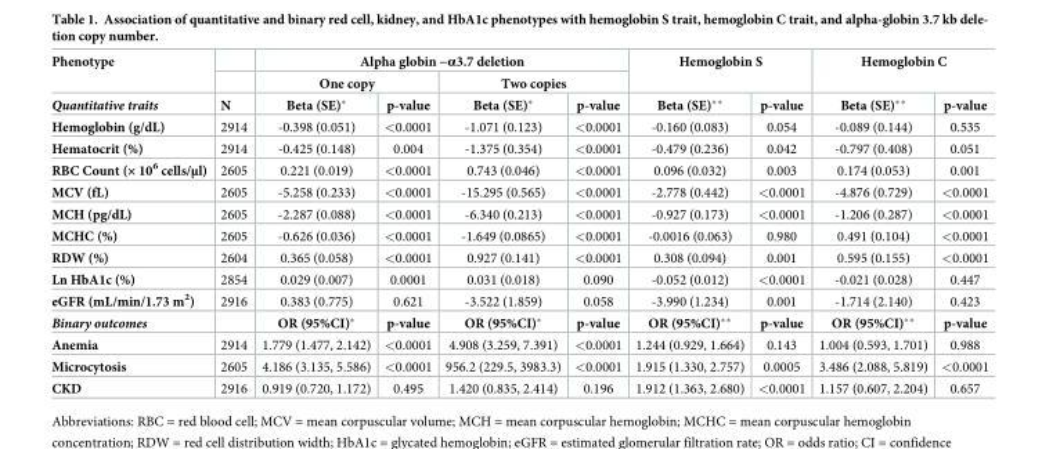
<table><thead><tr><td rowspan="3">Phenotype Quantitative traits</td><td rowspan="3">N</td><td colspan="4">Alpha globin −α3.7 deletion</td><td rowspan="2" colspan="2">Hemoglobin S</td><td rowspan="2" colspan="2">Hemoglobin C</td></tr><tr><td colspan="2">One copy</td><td colspan="2">Two copies</td></tr><tr><td>Beta (SE)*</td><td>p-value</td><td>Beta (SE)*</td><td>p-value</td><td>Beta (SE)**</td><td>p-value</td><td>Beta (SE)**</td><td>p-value</td></tr></thead><tbody><tr><td>Hemoglobin (g/dL)</td><td>2914</td><td>-0.398 (0.051)</td><td>&lt;0.0001</td><td>-1.071 (0.123)</td><td>&lt;0.0001</td><td>-0.160 (0.083)</td><td>0.054</td><td>-0.089 (0.144)</td><td>0.535</td></tr><tr><td>Hematocrit (%)</td><td>2914</td><td>-0.425 (0.148)</td><td>0.004</td><td>-1.375 (0.354)</td><td>&lt;0.0001</td><td>-0.479 (0.236)</td><td>0.042</td><td>-0.797 (0.408)</td><td>0.051</td></tr><tr><td>RBC Count (× 10<sup>6</sup> cells/μl)</td><td>2605</td><td>0.221 (0.019)</td><td>&lt;0.0001</td><td>0.743 (0.046)</td><td>&lt;0.0001</td><td>0.096 (0.032)</td><td>0.003</td><td>0.174 (0.053)</td><td>0.001</td></tr><tr><td>MCV (fL)</td><td>2605</td><td>-5.258 (0.233)</td><td>&lt;0.0001</td><td>-15.295 (0.565)</td><td>&lt;0.0001</td><td>-2.778 (0.442)</td><td>&lt;0.0001</td><td>-4.876 (0.729)</td><td>&lt;0.0001</td></tr><tr><td>MCH (pg/dL)</td><td>2605</td><td>-2.287 (0.088)</td><td>&lt;0.0001</td><td>-6.340 (0.213)</td><td>&lt;0.0001</td><td>-0.927 (0.173)</td><td>&lt;0.0001</td><td>-1.206 (0.287)</td><td>&lt;0.0001</td></tr><tr><td>MCHC (%)</td><td>2605</td><td>-0.626 (0.036)</td><td>&lt;0.0001</td><td>-1.649 (0.0865)</td><td>&lt;0.0001</td><td>-0.0016 (0.063)</td><td>0.980</td><td>0.491 (0.104)</td><td>&lt;0.0001</td></tr><tr><td>RDW (%)</td><td>2604</td><td>0.365 (0.058)</td><td>&lt;0.0001</td><td>0.927 (0.141)</td><td>&lt;0.0001</td><td>0.308 (0.094)</td><td>0.001</td><td>0.595 (0.155)</td><td>&lt;0.0001</td></tr><tr><td>Ln HbA1c (%)</td><td>2854</td><td>0.029 (0.007)</td><td>0.0001</td><td>0.031 (0.018)</td><td>0.090</td><td>-0.052 (0.012)</td><td>&lt;0.0001</td><td>-0.021 (0.028)</td><td>0.447</td></tr><tr><td>eGFR (mL/min/1.73 m<sup>2</sup>)</td><td>2916</td><td>0.383 (0.775)</td><td>0.621</td><td>-3.522 (1.859)</td><td>0.058</td><td>-3.990 (1.234)</td><td>0.001</td><td>-1.714 (2.140)</td><td>0.423</td></tr><tr><td>Binary outcomes</td><td></td><td>OR (95%CI)*</td><td>p-value</td><td>OR (95%CI)*</td><td>p-value</td><td>OR (95%CI)**</td><td>p-value</td><td>OR (95%CI)**</td><td>p-value</td></tr><tr><td>Anemia</td><td>2914</td><td>1.779 (1.477, 2.142)</td><td>&lt;0.0001</td><td>4.908 (3.259, 7.391)</td><td>&lt;0.0001</td><td>1.244 (0.929, 1.664)</td><td>0.143</td><td>1.004 (0.593, 1.701)</td><td>0.988</td></tr><tr><td>Microcytosis</td><td>2605</td><td>4.186 (3.135, 5.586)</td><td>&lt;0.0001</td><td>956.2 (229.5, 3983.3)</td><td>&lt;0.0001</td><td>1.915 (1.330, 2.757)</td><td>0.0005</td><td>3.486 (2.088, 5.819)</td><td>&lt;0.0001</td></tr><tr><td>CKD</td><td>2916</td><td>0.919 (0.720, 1.172)</td><td>0.495</td><td>1.420 (0.835, 2.414)</td><td>0.196</td><td>1.912 (1.363, 2.680)</td><td>&lt;0.0001</td><td>1.157 (0.607, 2.204)</td><td>0.657</td></tr></tbody></table>